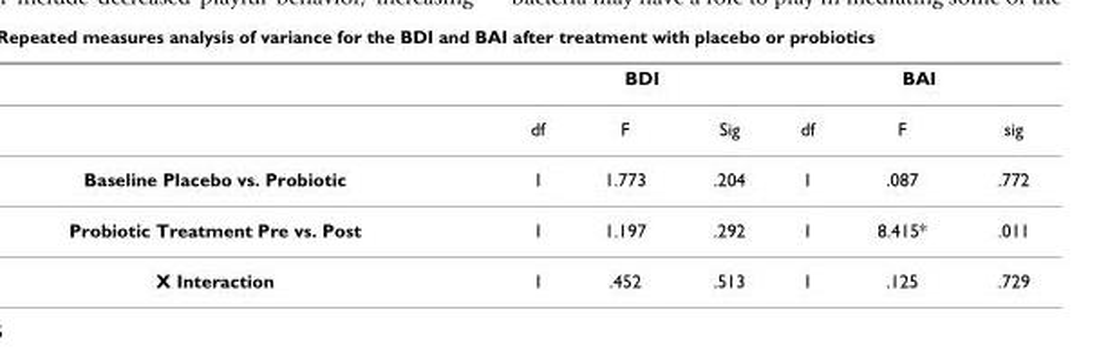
<table><thead><tr><td rowspan="2"></td><td colspan="3">BDI</td><td colspan="3">BAI</td></tr><tr><td>df</td><td>F</td><td>Sig</td><td>df</td><td>F</td><td>sig</td></tr></thead><tbody><tr><td>Baseline Placebo vs. Probiotic</td><td>1</td><td>1.773</td><td>.204</td><td>1</td><td>.087</td><td>.772</td></tr><tr><td>Probiotic Treatment Pre vs. Post</td><td>1</td><td>1.197</td><td>.292</td><td>1</td><td>8.415*</td><td>.011</td></tr><tr><td>X Interaction</td><td>1</td><td>.452</td><td>.513</td><td>1</td><td>.125</td><td>.729</td></tr></tbody></table>